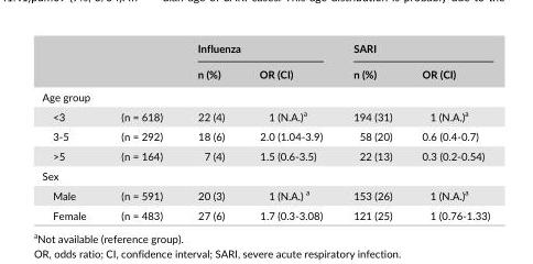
<table><thead><tr><td rowspan="2"></td><td rowspan="2"></td><td colspan="2">Influenza</td><td colspan="2">SARI</td></tr><tr><td>n (%)</td><td>OR (CI)</td><td>n (%)</td><td>OR (CI)</td></tr></thead><tbody><tr><td colspan="6">Age group</td></tr><tr><td>&lt;3</td><td>(n = 618)</td><td>22 (4)</td><td>1 (N.A.)<sup>a</sup></td><td>194 (31)</td><td>1 (N.A.)<sup>a</sup></td></tr><tr><td>3- 5</td><td>(n = 292)</td><td>18 (6)</td><td>2.0 (1.04- 3.9)</td><td>58 (20)</td><td>0.6 (0.4- 0.7)</td></tr><tr><td>&gt;5</td><td>(n = 164)</td><td>7 (4)</td><td>1.5 (0.6- 3.5)</td><td>22 (13)</td><td>0.3 (0.2- 0.54)</td></tr><tr><td colspan="6">Sex</td></tr><tr><td>Male</td><td>(n = 591)</td><td>20 (3)</td><td>1 (N.A.) <sup>a</sup></td><td>153 (26)</td><td>1 (N.A.)<sup>a</sup></td></tr><tr><td>Female</td><td>(n = 483)</td><td>27 (6)</td><td>1.7 (0.3- 3.08)</td><td>121 (25)</td><td>1 (0.76- 1.33)</td></tr></tbody></table>